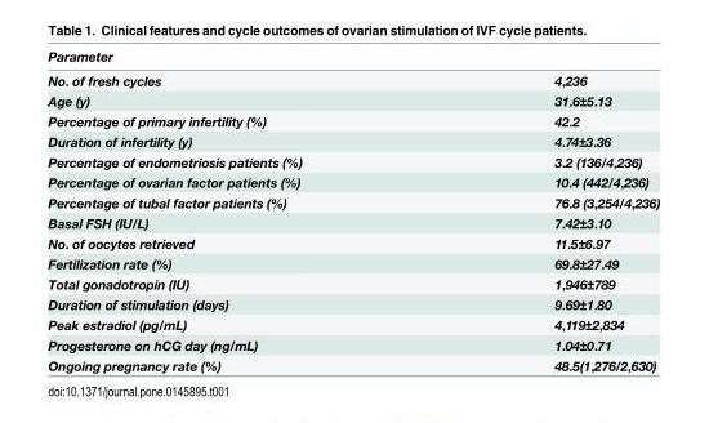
<table><thead><tr><td>Parameter</td><td></td></tr></thead><tbody><tr><td>No. of fresh cycles</td><td>4,236</td></tr><tr><td>Age (y)</td><td>31.6±5.13</td></tr><tr><td>Percentage of primary infertility (%)</td><td>42.2</td></tr><tr><td>Duration of infertility (y)</td><td>4.74±3.36</td></tr><tr><td>Percentage of endometriosis patients (%)</td><td>3.2 (136/4,236)</td></tr><tr><td>Percentage of ovarian factor patients (%)</td><td>10.4 (442/4,236)</td></tr><tr><td>Percentage of tubal factor patients (%)</td><td>76.8 (3,254/4,236)</td></tr><tr><td>Basal FSH (IU/L)</td><td>7.42±3.10</td></tr><tr><td>No. of oocytes retrieved</td><td>11.5±6.97</td></tr><tr><td>Fertilization rate (%)</td><td>69.8±27.49</td></tr><tr><td>Total gonadotropin (IU)</td><td>1,946±789</td></tr><tr><td>Duration of stimulation (days)</td><td>9.69±1.80</td></tr><tr><td>Peak estradiol (pg/mL)</td><td>4,119±2,834</td></tr><tr><td>Progesterone on hCG day (ng/mL)</td><td>1.04±0.71</td></tr><tr><td>Ongoing pregnancy rate (%)</td><td>48.5(1,276/2,630)</td></tr></tbody></table>